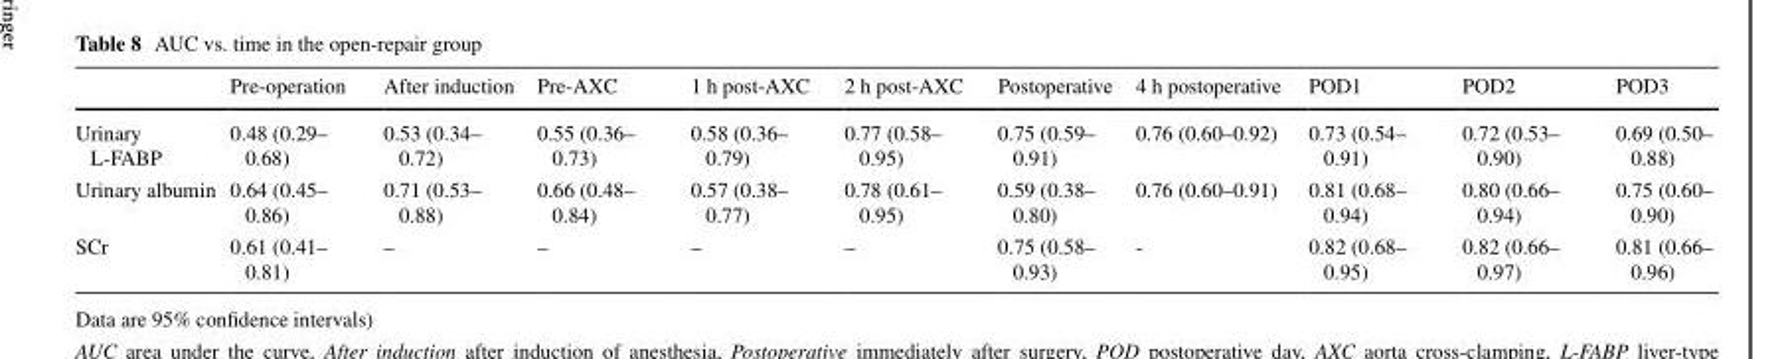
<table><thead><tr><td></td><td>Pre-operation</td><td>After induction</td><td>Pre-AXC</td><td>1 h post-AXC</td><td>2 h post-AXC</td><td>Postoperative</td><td>4 h postoperative</td><td>POD1</td><td>POD2</td><td>POD3</td></tr></thead><tbody><tr><td>Urinary L-FABP</td><td>0.48 (0.29– 0.68)</td><td>0.53 (0.34– 0.72)</td><td>0.55 (0.36– 0.73)</td><td>0.58 (0.36– 0.79)</td><td>0.77 (0.58– 0.95)</td><td>0.75 (0.59– 0.91)</td><td>0.76 (0.60–0.92)</td><td>0.73 (0.54– 0.91)</td><td>0.72 (0.53– 0.90)</td><td>0.69 (0.50– 0.88)</td></tr><tr><td>Urinary albumin</td><td>0.64 (0.45– 0.86)</td><td>0.71 (0.53– 0.88)</td><td>0.66 (0.48– 0.84)</td><td>0.57 (0.38– 0.77)</td><td>0.78 (0.61– 0.95)</td><td>0.59 (0.38– 0.80)</td><td>0.76 (0.60–0.91)</td><td>0.81 (0.68– 0.94)</td><td>0.80 (0.66– 0.94)</td><td>0.75 (0.60– 0.90)</td></tr><tr><td>SCr</td><td>0.61 (0.41– 0.81)</td><td>–</td><td>–</td><td>–</td><td>–</td><td>0.75 (0.58– 0.93)</td><td>-</td><td>0.82 (0.68– 0.95)</td><td>0.82 (0.66– 0.97)</td><td>0.81 (0.66– 0.96)</td></tr></tbody></table>